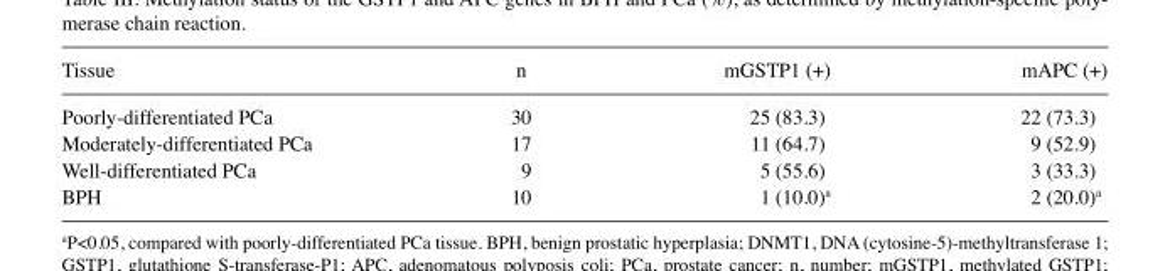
<table><thead><tr><td>Tissue</td><td>n</td><td>mGSTP1 (+)</td><td>mAPC (+)</td></tr></thead><tbody><tr><td>Poorly‑differentiated PCa</td><td>30</td><td>25 (83.3)</td><td>22 (73.3)</td></tr><tr><td>Moderately‑differentiated PCa</td><td>17</td><td>11 (64.7)</td><td>9 (52.9)</td></tr><tr><td>Well‑differentiated PCa</td><td>9</td><td>5 (55.6)</td><td>3 (33.3)</td></tr><tr><td>BPH</td><td>10</td><td>1 (10.0)<sup>a</sup></td><td>2 (20.0)<sup>a</sup></td></tr></tbody></table>